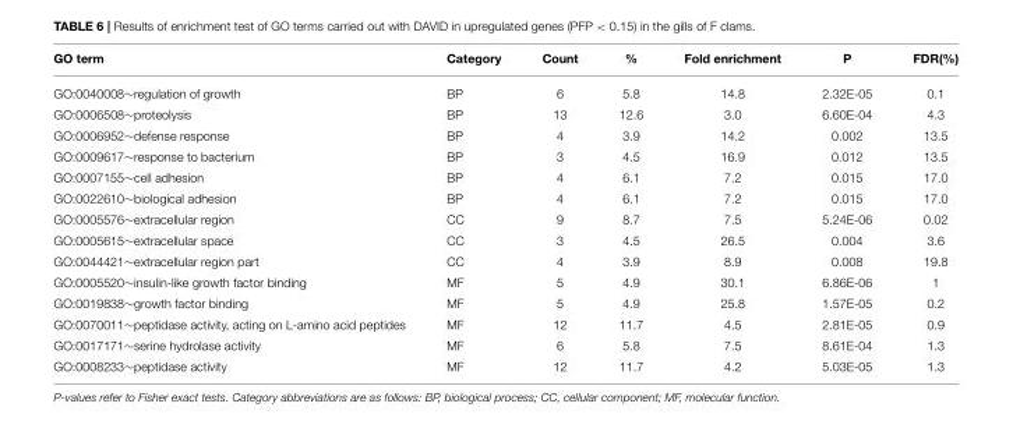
<table><thead><tr><td>GO term</td><td>Category</td><td>Count</td><td>%</td><td>Fold enrichment</td><td>P</td><td>FDR(%)</td></tr></thead><tbody><tr><td>GO:0040008∼regulation of growth</td><td>BP</td><td>6</td><td>5.8</td><td>14.8</td><td>2.32E-05</td><td>0.1</td></tr><tr><td>GO:0006508∼proteolysis</td><td>BP</td><td>13</td><td>12.6</td><td>3.0</td><td>6.60E-04</td><td>4.3</td></tr><tr><td>GO:0006952∼defense response</td><td>BP</td><td>4</td><td>3.9</td><td>14.2</td><td>0.002</td><td>13.5</td></tr><tr><td>GO:0009617∼response to bacterium</td><td>BP</td><td>3</td><td>4.5</td><td>16.9</td><td>0.012</td><td>13.5</td></tr><tr><td>GO:0007155∼cell adhesion</td><td>BP</td><td>4</td><td>6.1</td><td>7.2</td><td>0.015</td><td>17.0</td></tr><tr><td>GO:0022610∼biological adhesion</td><td>BP</td><td>4</td><td>6.1</td><td>7.2</td><td>0.015</td><td>17.0</td></tr><tr><td>GO:0005576∼extracellular region</td><td>CC</td><td>9</td><td>8.7</td><td>7.5</td><td>5.24E-06</td><td>0.02</td></tr><tr><td>GO:0005615∼extracellular space</td><td>CC</td><td>3</td><td>4.5</td><td>26.5</td><td>0.004</td><td>3.6</td></tr><tr><td>GO:0044421∼extracellular region part</td><td>CC</td><td>4</td><td>3.9</td><td>8.9</td><td>0.008</td><td>19.8</td></tr><tr><td>GO:0005520∼insulin-like growth factor binding</td><td>MF</td><td>5</td><td>4.9</td><td>30.1</td><td>6.86E-06</td><td>1</td></tr><tr><td>GO:0019838∼growth factor binding</td><td>MF</td><td>5</td><td>4.9</td><td>25.8</td><td>1.57E-05</td><td>0.2</td></tr><tr><td>GO:0070011∼peptidase activity, acting on L-amino acid peptides</td><td>MF</td><td>12</td><td>11.7</td><td>4.5</td><td>2.81E-05</td><td>0.9</td></tr><tr><td>GO:0017171∼serine hydrolase activity</td><td>MF</td><td>6</td><td>5.8</td><td>7.5</td><td>8.61E-04</td><td>1.3</td></tr><tr><td>GO:0008233∼peptidase activity</td><td>MF</td><td>12</td><td>11.7</td><td>4.2</td><td>5.03E-05</td><td>1.3</td></tr></tbody></table>